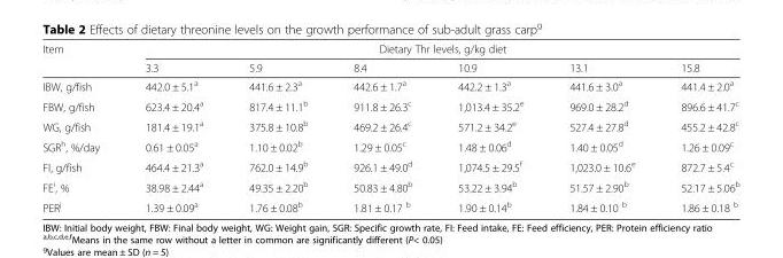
<table><thead><tr><td rowspan="2">Item</td><td colspan="6">Dietary Thr levels, g/kg diet</td></tr><tr><td>3.3</td><td>5.9</td><td>8.4</td><td>10.9</td><td>13.1</td><td>15.8</td></tr></thead><tbody><tr><td>IBW, g/fish</td><td>442.0 ± 5.1<sup>a</sup></td><td>441.6 ± 2.3<sup>a</sup></td><td>442.6 ± 1.7<sup>a</sup></td><td>442.2 ± 1.3<sup>a</sup></td><td>441.6 ± 3.0<sup>a</sup></td><td>441.4 ± 2.0<sup>a</sup></td></tr><tr><td>FBW, g/fish</td><td>623.4 ± 20.4<sup>a</sup></td><td>817.4 ± 11.1<sup>b</sup></td><td>911.8 ± 26.3<sup>c</sup></td><td>1,013.4 ± 35.2<sup>e</sup></td><td>969.0 ± 28.2<sup>d</sup></td><td>896.6 ± 41.7<sup>c</sup></td></tr><tr><td>WG, g/fish</td><td>181.4 ± 19.1<sup>a</sup></td><td>375.8 ± 10.8<sup>b</sup></td><td>469.2 ± 26.4<sup>c</sup></td><td>571.2 ± 34.2<sup>e</sup></td><td>527.4 ± 27.8<sup>d</sup></td><td>455.2 ± 42.8<sup>c</sup></td></tr><tr><td>SGR<sup>h</sup>, %/day</td><td>0.61 ± 0.05<sup>a</sup></td><td>1.10 ± 0.02<sup>b</sup></td><td>1.29 ± 0.05<sup>c</sup></td><td>1.48 ± 0.06<sup>d</sup></td><td>1.40 ± 0.05<sup>d</sup></td><td>1.26 ± 0.09<sup>c</sup></td></tr><tr><td>FI, g/fish</td><td>464.4 ± 21.3<sup>a</sup></td><td>762.0 ± 14.9<sup>b</sup></td><td>926.1 ± 49.0<sup>d</sup></td><td>1,074.5 ± 29.5<sup>f</sup></td><td>1,023.0 ± 10.6<sup>e</sup></td><td>872.7 ± 5.4<sup>c</sup></td></tr><tr><td>FE<sup>i</sup>, %</td><td>38.98 ± 2.44<sup>a</sup></td><td>49.35 ± 2.20<sup>b</sup></td><td>50.83 ± 4.80<sup>b</sup></td><td>53.22 ± 3.94<sup>b</sup></td><td>51.57 ± 2.90<sup>b</sup></td><td>52.17 ± 5.06<sup>b</sup></td></tr><tr><td>PER<sup>j</sup></td><td>1.39 ± 0.09<sup>a</sup></td><td>1.76 ± 0.08<sup>b</sup></td><td>1.81 ± 0.17 <sup>b</sup></td><td>1.90 ± 0.14<sup>b</sup></td><td>1.84 ± 0.10 <sup>b</sup></td><td>1.86 ± 0.18 <sup>b</sup></td></tr></tbody></table>